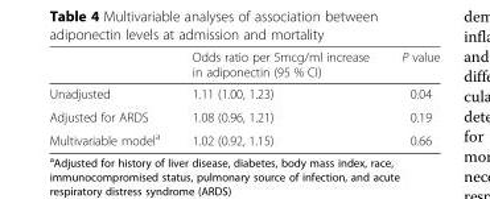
<table><thead><tr><td></td><td>Odds ratio per 5mcg/ml increase in adiponectin (95 % CI)</td><td>P value</td></tr></thead><tbody><tr><td>Unadjusted</td><td>1.11 (1.00, 1.23)</td><td>0.04</td></tr><tr><td>Adjusted for ARDS</td><td>1.08 (0.96, 1.21)</td><td>0.19</td></tr><tr><td>Multivariable model<sup>a</sup></td><td>1.02 (0.92, 1.15)</td><td>0.66</td></tr></tbody></table>